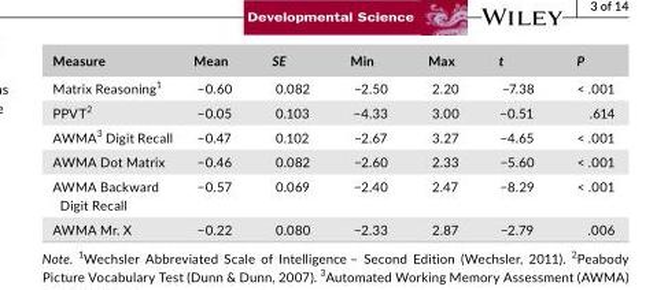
<table><thead><tr><td>Measure</td><td>Mean</td><td>SE</td><td>Min</td><td>Max</td><td>t</td><td>P</td></tr></thead><tbody><tr><td>Matrix Reasoning<sup>1</sup></td><td>−0.60</td><td>0.082</td><td>−2.50</td><td>2.20</td><td>−7.38</td><td>&lt; .001</td></tr><tr><td>PPVT<sup>2</sup></td><td>−0.05</td><td>0.103</td><td>−4.33</td><td>3.00</td><td>−0.51</td><td>.614</td></tr><tr><td>AWMA<sup>3</sup> Digit Recall</td><td>−0.47</td><td>0.102</td><td>−2.67</td><td>3.27</td><td>−4.65</td><td>&lt; .001</td></tr><tr><td>AWMA Dot Matrix</td><td>−0.46</td><td>0.082</td><td>−2.60</td><td>2.33</td><td>−5.60</td><td>&lt; .001</td></tr><tr><td>AWMA Backward Digit Recall</td><td>−0.57</td><td>0.069</td><td>−2.40</td><td>2.47</td><td>−8.29</td><td>&lt; .001</td></tr><tr><td>AWMA Mr. X</td><td>−0.22</td><td>0.080</td><td>−2.33</td><td>2.87</td><td>−2.79</td><td>.006</td></tr></tbody></table>